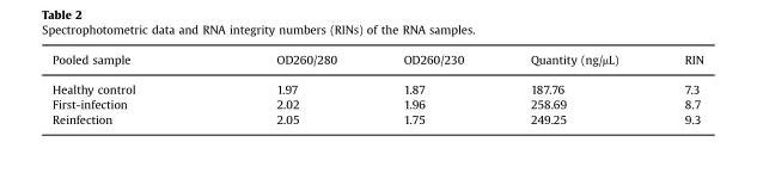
<table><thead><tr><td>Pooled sample</td><td>OD260/280</td><td>OD260/230</td><td>Quantity (ng/µL)</td><td>RIN</td></tr></thead><tbody><tr><td>Healthy control</td><td>1.97</td><td>1.87</td><td>187.76</td><td>7.3</td></tr><tr><td>First-infection</td><td>2.02</td><td>1.96</td><td>258.69</td><td>8.7</td></tr><tr><td>Reinfection</td><td>2.05</td><td>1.75</td><td>249.25</td><td>9.3</td></tr></tbody></table>